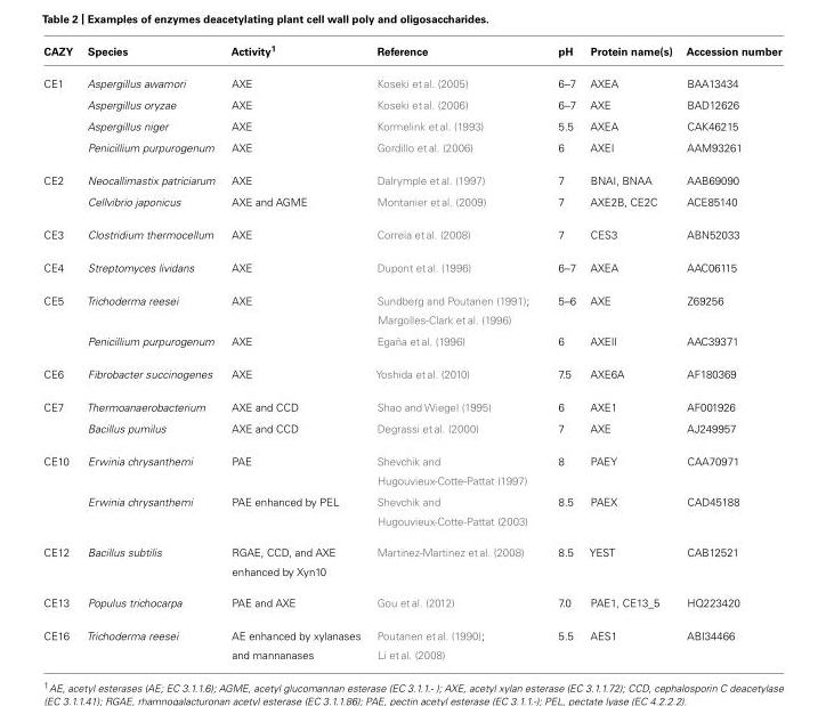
<table><thead><tr><td>CAZY</td><td>Species</td><td>Activity<sup>1</sup></td><td>Reference</td><td>pH</td><td>Protein name(s)</td><td>Accession number</td></tr></thead><tbody><tr><td rowspan="4">CE1</td><td>Aspergillus awamori</td><td>AXE</td><td>Koseki et al. (2005)</td><td>6–7</td><td>AXEA</td><td>BAA13434</td></tr><tr><td>Aspergillus oryzae</td><td>AXE</td><td>Koseki et al. (2006)</td><td>6–7</td><td>AXE</td><td>BAD12626</td></tr><tr><td>Aspergillus niger</td><td>AXE</td><td>Kormelink et al. (1993)</td><td>5.5</td><td>AXEA</td><td>CAK46215</td></tr><tr><td>Penicillium purpurogenum</td><td>AXE</td><td>Gordillo et al. (2006)</td><td>6</td><td>AXEI</td><td>AAM93261</td></tr><tr><td rowspan="2">CE2</td><td>Neocallimastix patriciarum</td><td>AXE</td><td>Dalrymple et al. (1997)</td><td>7</td><td>BNAI, BNAA</td><td>AAB69090</td></tr><tr><td>Cellvibrio japonicus</td><td>AXE and AGME</td><td>Montanier et al. (2009)</td><td>7</td><td>AXE2B, CE2C</td><td>ACE85140</td></tr><tr><td>CE3</td><td>Clostridium thermocellum</td><td>AXE</td><td>Correia et al. (2008)</td><td>7</td><td>CES3</td><td>ABN52033</td></tr><tr><td>CE4</td><td>Streptomyces lividans</td><td>AXE</td><td>Dupont et al. (1996)</td><td>6–7</td><td>AXEA</td><td>AAC06115</td></tr><tr><td rowspan="2">CE5</td><td>Trichoderma reesei</td><td>AXE</td><td>Sundberg and Poutanen (1991); Margolles-Clark et al. (1996)</td><td>5–6</td><td>AXE</td><td>Z69256</td></tr><tr><td>Penicillium purpurogenum</td><td>AXE</td><td>Egaña et al. (1996)</td><td>6</td><td>AXEII</td><td>AAC39371</td></tr><tr><td>CE6</td><td>Fibrobacter succinogenes</td><td>AXE</td><td>Yoshida et al. (2010)</td><td>7.5</td><td>AXE6A</td><td>AF180369</td></tr><tr><td rowspan="2">CE7</td><td>Thermoanaerobacterium</td><td>AXE and CCD</td><td>Shao and Wiegel (1995)</td><td>6</td><td>AXE1</td><td>AF001926</td></tr><tr><td>Bacillus pumilus</td><td>AXE and CCD</td><td>Degrassi et al. (2000)</td><td>7</td><td>AXE</td><td>AJ249957</td></tr><tr><td rowspan="2">CE10</td><td>Erwinia chrysanthemi</td><td>PAE</td><td>Shevchik and Hugouvieux-Cotte-Pattat (1997)</td><td>8</td><td>PAEY</td><td>CAA70971</td></tr><tr><td>Erwinia chrysanthemi</td><td>PAE enhanced by PEL</td><td>Shevchik and Hugouvieux-Cotte-Pattat (2003)</td><td>8.5</td><td>PAEX</td><td>CAD45188</td></tr><tr><td>CE12</td><td>Bacillus subtilis</td><td>RGAE, CCD, and AXE enhanced by Xyn10</td><td>Martinez-Martinez et al. (2008)</td><td>8.5</td><td>YEST</td><td>CAB12521</td></tr><tr><td>CE13</td><td>Populus trichocarpa</td><td>PAE and AXE</td><td>Gou et al. (2012)</td><td>7.0</td><td>PAE1, CE13_5</td><td>HQ223420</td></tr><tr><td>CE16</td><td>Trichoderma reesei</td><td>AE enhanced by xylanases and mannanases</td><td>Poutanen et al. (1990); Li et al. (2008)</td><td>5.5</td><td>AES1</td><td>ABI34466</td></tr></tbody></table>